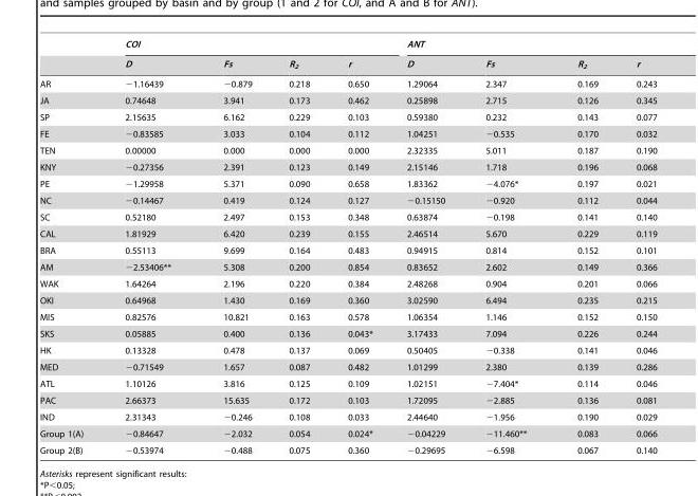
<table><thead><tr><td rowspan="2"></td><td colspan="4">COI</td><td colspan="4">ANT</td></tr><tr><td>D</td><td>Fs</td><td>R<sub>2</sub></td><td>r</td><td>D</td><td>Fs</td><td>R<sub>2</sub></td><td>r</td></tr></thead><tbody><tr><td>AR</td><td>−1.16439</td><td>−0.879</td><td>0.218</td><td>0.650</td><td>1.29064</td><td>2.347</td><td>0.169</td><td>0.243</td></tr><tr><td>JA</td><td>0.74648</td><td>3.941</td><td>0.173</td><td>0.462</td><td>0.25898</td><td>2.715</td><td>0.126</td><td>0.345</td></tr><tr><td>SP</td><td>2.15635</td><td>6.162</td><td>0.229</td><td>0.103</td><td>0.59380</td><td>0.232</td><td>0.143</td><td>0.077</td></tr><tr><td>FE</td><td>−0.83585</td><td>3.033</td><td>0.104</td><td>0.112</td><td>1.04251</td><td>−0.535</td><td>0.170</td><td>0.032</td></tr><tr><td>TEN</td><td>0.00000</td><td>0.000</td><td>0.000</td><td>0.000</td><td>2.32335</td><td>5.011</td><td>0.187</td><td>0.190</td></tr><tr><td>KNY</td><td>−0.27356</td><td>2.391</td><td>0.123</td><td>0.149</td><td>2.15146</td><td>1.718</td><td>0.196</td><td>0.068</td></tr><tr><td>PE</td><td>−1.29958</td><td>5.371</td><td>0.090</td><td>0.658</td><td>1.83362</td><td>−4.076*</td><td>0.197</td><td>0.021</td></tr><tr><td>NC</td><td>−0.14467</td><td>0.419</td><td>0.124</td><td>0.127</td><td>−0.15150</td><td>−0.920</td><td>0.112</td><td>0.044</td></tr><tr><td>SC</td><td>0.52180</td><td>2.497</td><td>0.153</td><td>0.348</td><td>0.63874</td><td>−0.198</td><td>0.141</td><td>0.140</td></tr><tr><td>CAL</td><td>1.81929</td><td>6.420</td><td>0.239</td><td>0.155</td><td>2.46514</td><td>5.670</td><td>0.229</td><td>0.119</td></tr><tr><td>BRA</td><td>0.55113</td><td>9.699</td><td>0.164</td><td>0.483</td><td>0.94915</td><td>0.814</td><td>0.152</td><td>0.101</td></tr><tr><td>AM</td><td>−2.53406**</td><td>5.308</td><td>0.200</td><td>0.854</td><td>0.83652</td><td>2.602</td><td>0.149</td><td>0.366</td></tr><tr><td>WAK</td><td>1.64264</td><td>2.196</td><td>0.220</td><td>0.384</td><td>2.48268</td><td>0.904</td><td>0.201</td><td>0.066</td></tr><tr><td>OKI</td><td>0.64968</td><td>1.430</td><td>0.169</td><td>0.360</td><td>3.02590</td><td>6.494</td><td>0.235</td><td>0.215</td></tr><tr><td>MIS</td><td>0.82576</td><td>10.821</td><td>0.163</td><td>0.578</td><td>1.06354</td><td>1.146</td><td>0.152</td><td>0.150</td></tr><tr><td>SKS</td><td>0.05885</td><td>0.400</td><td>0.136</td><td>0.043*</td><td>3.17433</td><td>7.094</td><td>0.226</td><td>0.244</td></tr><tr><td>HK</td><td>0.13328</td><td>0.478</td><td>0.137</td><td>0.069</td><td>0.50405</td><td>−0.338</td><td>0.141</td><td>0.046</td></tr><tr><td>MED</td><td>−0.71549</td><td>1.657</td><td>0.087</td><td>0.482</td><td>1.01299</td><td>2.380</td><td>0.139</td><td>0.286</td></tr><tr><td>ATL</td><td>1.10126</td><td>3.816</td><td>0.125</td><td>0.109</td><td>1.02151</td><td>−7.404*</td><td>0.114</td><td>0.046</td></tr><tr><td>PAC</td><td>2.66373</td><td>15.635</td><td>0.172</td><td>0.103</td><td>1.72095</td><td>−2.885</td><td>0.136</td><td>0.081</td></tr><tr><td>IND</td><td>2.31343</td><td>−0.246</td><td>0.108</td><td>0.033</td><td>2.44640</td><td>−1.956</td><td>0.190</td><td>0.029</td></tr><tr><td>Group 1(A)</td><td>−0.84647</td><td>−2.032</td><td>0.054</td><td>0.024*</td><td>−0.04229</td><td>−11.460**</td><td>0.083</td><td>0.066</td></tr><tr><td>Group 2(B)</td><td>−0.53974</td><td>−0.488</td><td>0.075</td><td>0.360</td><td>−0.29695</td><td>−6.598</td><td>0.067</td><td>0.140</td></tr></tbody></table>